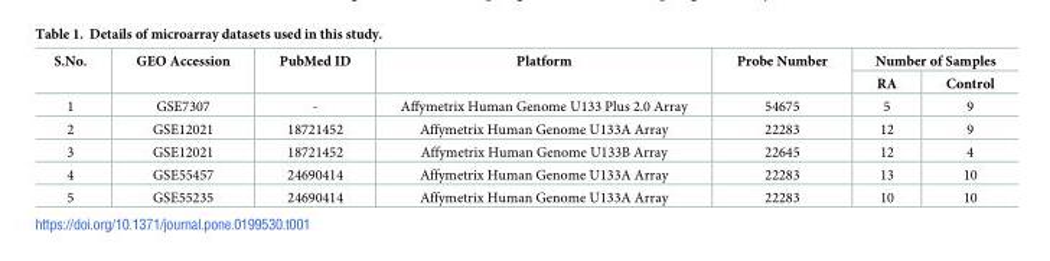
<table><thead><tr><td rowspan="2">S.No.</td><td rowspan="2">GEO Accession</td><td rowspan="2">PubMed ID</td><td rowspan="2">Platform</td><td rowspan="2">Probe Number</td><td colspan="2">Number of Samples</td></tr><tr><td>RA</td><td>Control</td></tr></thead><tbody><tr><td>1</td><td>GSE7307</td><td>-</td><td>Affymetrix Human Genome U133 Plus 2.0 Array</td><td>54675</td><td>5</td><td>9</td></tr><tr><td>2</td><td>GSE12021</td><td>18721452</td><td>Affymetrix Human Genome U133A Array</td><td>22283</td><td>12</td><td>9</td></tr><tr><td>3</td><td>GSE12021</td><td>18721452</td><td>Affymetrix Human Genome U133B Array</td><td>22645</td><td>12</td><td>4</td></tr><tr><td>4</td><td>GSE55457</td><td>24690414</td><td>Affymetrix Human Genome U133A Array</td><td>22283</td><td>13</td><td>10</td></tr><tr><td>5</td><td>GSE55235</td><td>24690414</td><td>Affymetrix Human Genome U133A Array</td><td>22283</td><td>10</td><td>10</td></tr></tbody></table>